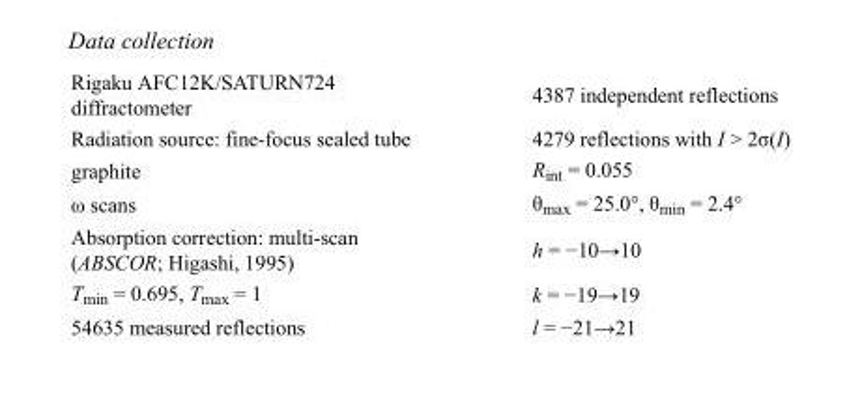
<table><tbody><tr><td>Rigaku AFC12K/SATURN724 diffractometer</td><td>4387 independent reflections</td></tr><tr><td>Radiation source: fine-focus sealed tube</td><td>4279 reflections with I &gt; 2σ(I)</td></tr><tr><td>graphite</td><td>R<sub>int</sub> = 0.055</td></tr><tr><td>ω scans</td><td>θ<sub>max</sub> = 25.0°, θ<sub>min</sub> = 2.4°</td></tr><tr><td>Absorption correction: multi-scan (ABSCOR; Higashi, 1995)</td><td>h = −10→10</td></tr><tr><td>T<sub>min</sub> = 0.695, T<sub>max</sub> = 1</td><td>k = −19→19</td></tr><tr><td>54635 measured reflections</td><td>l = −21→21</td></tr></tbody></table>